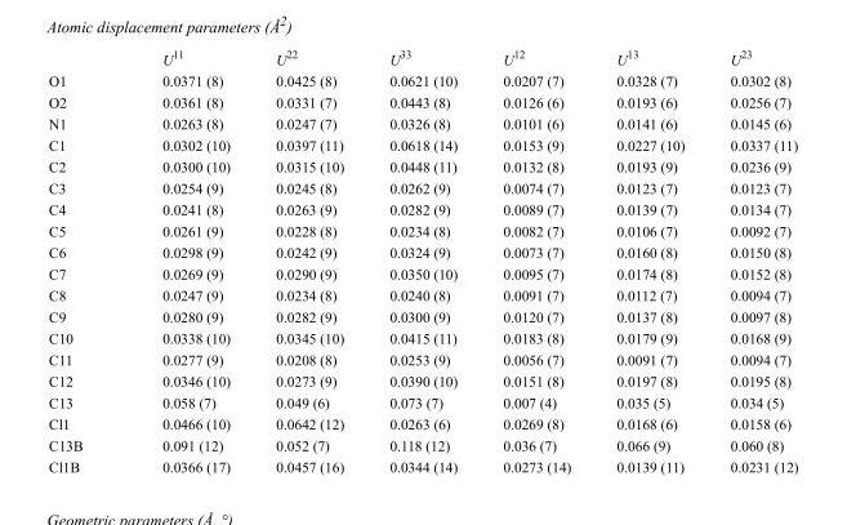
<table><thead><tr><td></td><td>U<sup>11</sup></td><td>U<sup>22</sup></td><td>U<sup>33</sup></td><td>U<sup>12</sup></td><td>U<sup>13</sup></td><td>U<sup>23</sup></td></tr></thead><tbody><tr><td>O1</td><td>0.0371 (8)</td><td>0.0425 (8)</td><td>0.0621 (10)</td><td>0.0207 (7)</td><td>0.0328 (7)</td><td>0.0302 (8)</td></tr><tr><td>O2</td><td>0.0361 (8)</td><td>0.0331 (7)</td><td>0.0443 (8)</td><td>0.0126 (6)</td><td>0.0193 (6)</td><td>0.0256 (7)</td></tr><tr><td>N1</td><td>0.0263 (8)</td><td>0.0247 (7)</td><td>0.0326 (8)</td><td>0.0101 (6)</td><td>0.0141 (6)</td><td>0.0145 (6)</td></tr><tr><td>C1</td><td>0.0302 (10)</td><td>0.0397 (11)</td><td>0.0618 (14)</td><td>0.0153 (9)</td><td>0.0227 (10)</td><td>0.0337 (11)</td></tr><tr><td>C2</td><td>0.0300 (10)</td><td>0.0315 (10)</td><td>0.0448 (11)</td><td>0.0132 (8)</td><td>0.0193 (9)</td><td>0.0236 (9)</td></tr><tr><td>C3</td><td>0.0254 (9)</td><td>0.0245 (8)</td><td>0.0262 (9)</td><td>0.0074 (7)</td><td>0.0123 (7)</td><td>0.0123 (7)</td></tr><tr><td>C4</td><td>0.0241 (8)</td><td>0.0263 (9)</td><td>0.0282 (9)</td><td>0.0089 (7)</td><td>0.0139 (7)</td><td>0.0134 (7)</td></tr><tr><td>C5</td><td>0.0261 (9)</td><td>0.0228 (8)</td><td>0.0234 (8)</td><td>0.0082 (7)</td><td>0.0106 (7)</td><td>0.0092 (7)</td></tr><tr><td>C6</td><td>0.0298 (9)</td><td>0.0242 (9)</td><td>0.0324 (9)</td><td>0.0073 (7)</td><td>0.0160 (8)</td><td>0.0150 (8)</td></tr><tr><td>C7</td><td>0.0269 (9)</td><td>0.0290 (9)</td><td>0.0350 (10)</td><td>0.0095 (7)</td><td>0.0174 (8)</td><td>0.0152 (8)</td></tr><tr><td>C8</td><td>0.0247 (9)</td><td>0.0234 (8)</td><td>0.0240 (8)</td><td>0.0091 (7)</td><td>0.0112 (7)</td><td>0.0094 (7)</td></tr><tr><td>C9</td><td>0.0280 (9)</td><td>0.0282 (9)</td><td>0.0300 (9)</td><td>0.0120 (7)</td><td>0.0137 (8)</td><td>0.0097 (8)</td></tr><tr><td>C10</td><td>0.0338 (10)</td><td>0.0345 (10)</td><td>0.0415 (11)</td><td>0.0183 (8)</td><td>0.0179 (9)</td><td>0.0168 (9)</td></tr><tr><td>C11</td><td>0.0277 (9)</td><td>0.0208 (8)</td><td>0.0253 (9)</td><td>0.0056 (7)</td><td>0.0091 (7)</td><td>0.0094 (7)</td></tr><tr><td>C12</td><td>0.0346 (10)</td><td>0.0273 (9)</td><td>0.0390 (10)</td><td>0.0151 (8)</td><td>0.0197 (8)</td><td>0.0195 (8)</td></tr><tr><td>C13</td><td>0.058 (7)</td><td>0.049 (6)</td><td>0.073 (7)</td><td>0.007 (4)</td><td>0.035 (5)</td><td>0.034 (5)</td></tr><tr><td>Cl1</td><td>0.0466 (10)</td><td>0.0642 (12)</td><td>0.0263 (6)</td><td>0.0269 (8)</td><td>0.0168 (6)</td><td>0.0158 (6)</td></tr><tr><td>C13B</td><td>0.091 (12)</td><td>0.052 (7)</td><td>0.118 (12)</td><td>0.036 (7)</td><td>0.066 (9)</td><td>0.060 (8)</td></tr><tr><td>Cl1B</td><td>0.0366 (17)</td><td>0.0457 (16)</td><td>0.0344 (14)</td><td>0.0273 (14)</td><td>0.0139 (11)</td><td>0.0231 (12)</td></tr></tbody></table>